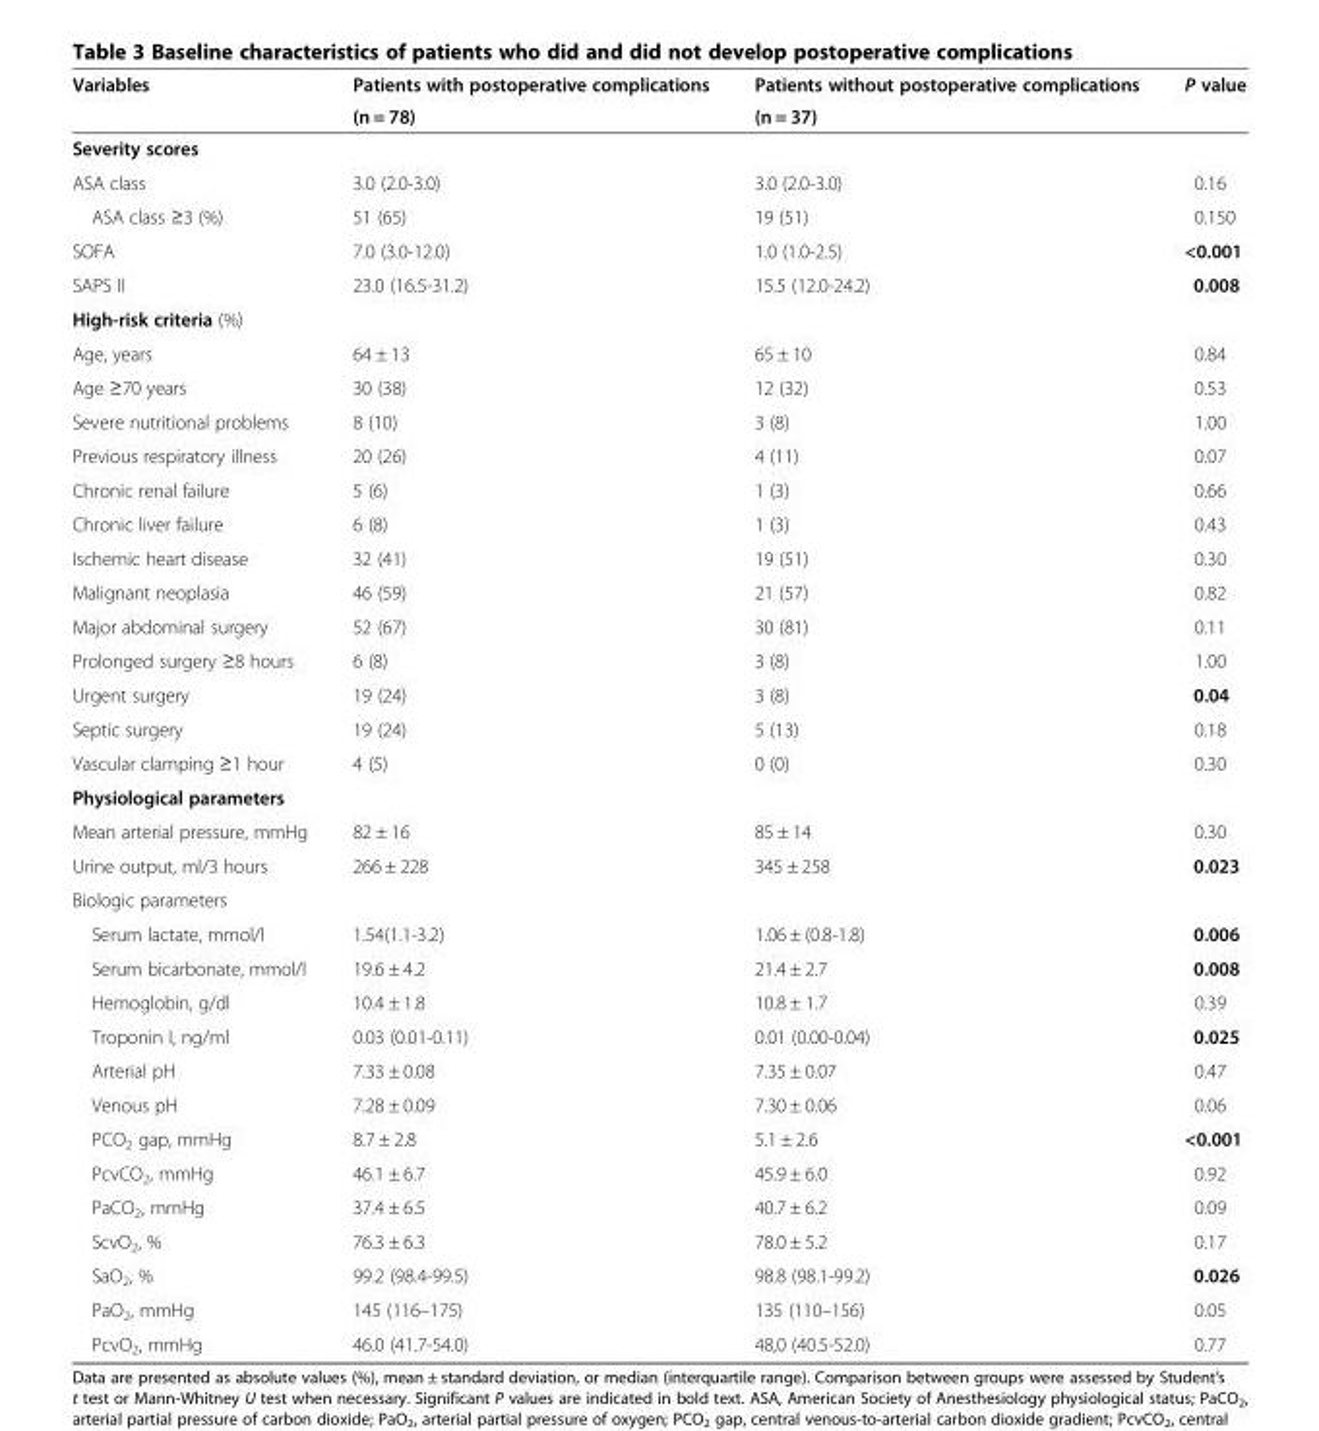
<table><thead><tr><td rowspan="2">Variables</td><td rowspan="2">Patients with postoperative complications (n = 78)</td><td rowspan="2">Patients without postoperative complications (n = 37)</td><td rowspan="2">P value</td></tr><tr></tr></thead><tbody><tr><td colspan="4">Severity scores</td></tr><tr><td>ASA class</td><td>3.0 (2.0-3.0)</td><td>3.0 (2.0-3.0)</td><td>0.16</td></tr><tr><td>ASA class ≥3 (%)</td><td>51 (65)</td><td>19 (51)</td><td>0.150</td></tr><tr><td>SOFA</td><td>7.0 (3.0-12.0)</td><td>1.0 (1.0-2.5)</td><td>&lt;0.001</td></tr><tr><td>SAPS II</td><td>23.0 (16.5-31.2)</td><td>15.5 (12.0-24.2)</td><td>0.008</td></tr><tr><td colspan="4">High-risk criteria (%)</td></tr><tr><td>Age, years</td><td>64 ± 13</td><td>65 ± 10</td><td>0.84</td></tr><tr><td>Age ≥70 years</td><td>30 (38)</td><td>12 (32)</td><td>0.53</td></tr><tr><td>Severe nutritional problems</td><td>8 (10)</td><td>3 (8)</td><td>1.00</td></tr><tr><td>Previous respiratory illness</td><td>20 (26)</td><td>4 (11)</td><td>0.07</td></tr><tr><td>Chronic renal failure</td><td>5 (6)</td><td>1 (3)</td><td>0.66</td></tr><tr><td>Chronic liver failure</td><td>6 (8)</td><td>1 (3)</td><td>0.43</td></tr><tr><td>Ischemic heart disease</td><td>32 (41)</td><td>19 (51)</td><td>0.30</td></tr><tr><td>Malignant neoplasia</td><td>46 (59)</td><td>21 (57)</td><td>0.82</td></tr><tr><td>Major abdominal surgery</td><td>52 (67)</td><td>30 (81)</td><td>0.11</td></tr><tr><td>Prolonged surgery ≥8 hours</td><td>6 (8)</td><td>3 (8)</td><td>1.00</td></tr><tr><td>Urgent surgery</td><td>19 (24)</td><td>3 (8)</td><td>0.04</td></tr><tr><td>Septic surgery</td><td>19 (24)</td><td>5 (13)</td><td>0.18</td></tr><tr><td>Vascular clamping ≥1 hour</td><td>4 (5)</td><td>0 (0)</td><td>0.30</td></tr><tr><td colspan="4">Physiological parameters</td></tr><tr><td>Mean arterial pressure, mmHg</td><td>82 ± 16</td><td>85 ± 14</td><td>0.30</td></tr><tr><td>Urine output, ml/3 hours</td><td>266 ± 228</td><td>345 ± 258</td><td>0.023</td></tr><tr><td colspan="4">Biologic parameters</td></tr><tr><td>Serum lactate, mmol/l</td><td>1.54(1.1-3.2)</td><td>1.06 ± (0.8-1.8)</td><td>0.006</td></tr><tr><td>Serum bicarbonate, mmol/l</td><td>19.6 ± 4.2</td><td>21.4 ± 2.7</td><td>0.008</td></tr><tr><td>Hemoglobin, g/dl</td><td>10.4 ± 1.8</td><td>10.8 ± 1.7</td><td>0.39</td></tr><tr><td>Troponin I, ng/ml</td><td>0.03 (0.01-0.11)</td><td>0.01 (0.00-0.04)</td><td>0.025</td></tr><tr><td>Arterial pH</td><td>7.33 ± 0.08</td><td>7.35 ± 0.07</td><td>0.47</td></tr><tr><td>Venous pH</td><td>7.28 ± 0.09</td><td>7.30 ± 0.06</td><td>0.06</td></tr><tr><td>PCO<sub>2</sub> gap, mmHg</td><td>8.7 ± 2.8</td><td>5.1 ± 2.6</td><td>&lt;0.001</td></tr><tr><td>PcvCO<sub>2</sub>, mmHg</td><td>46.1 ± 6.7</td><td>45.9 ± 6.0</td><td>0.92</td></tr><tr><td>PaCO<sub>2</sub>, mmHg</td><td>37.4 ± 6.5</td><td>40.7 ± 6.2</td><td>0.09</td></tr><tr><td>ScvO<sub>2</sub>, %</td><td>76.3 ± 6.3</td><td>78.0 ± 5.2</td><td>0.17</td></tr><tr><td>SaO<sub>2</sub>, %</td><td>99.2 (98.4-99.5)</td><td>98.8 (98.1-99.2)</td><td>0.026</td></tr><tr><td>PaO<sub>2</sub>, mmHg</td><td>145 (116–175)</td><td>135 (110–156)</td><td>0.05</td></tr><tr><td>PcvO<sub>2</sub>, mmHg</td><td>46.0 (41.7-54.0)</td><td>48,0 (40.5-52.0)</td><td>0.77</td></tr></tbody></table>